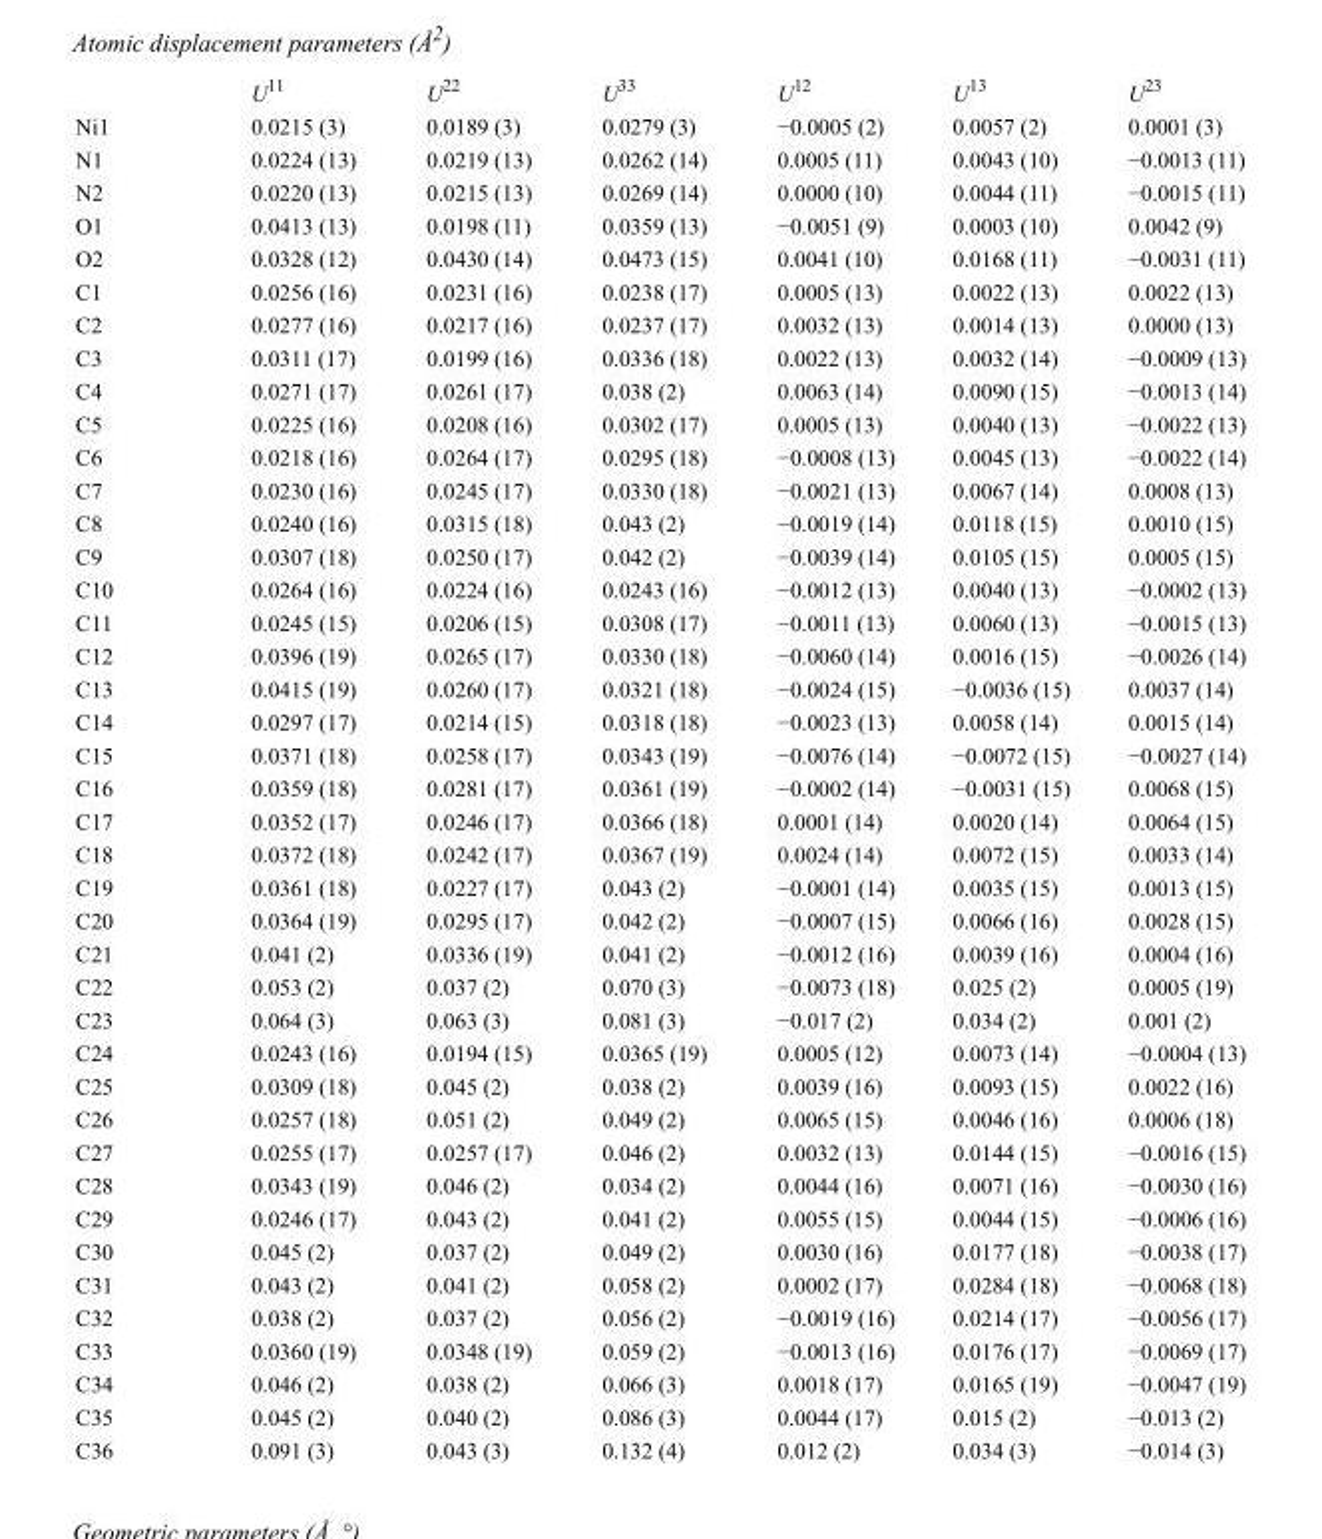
<table><thead><tr><td></td><td>U<sup>11</sup></td><td>U<sup>22</sup></td><td>U<sup>33</sup></td><td>U<sup>12</sup></td><td>U<sup>13</sup></td><td>U<sup>23</sup></td></tr></thead><tbody><tr><td>Ni1</td><td>0.0215 (3)</td><td>0.0189 (3)</td><td>0.0279 (3)</td><td>−0.0005 (2)</td><td>0.0057 (2)</td><td>0.0001 (3)</td></tr><tr><td>N1</td><td>0.0224 (13)</td><td>0.0219 (13)</td><td>0.0262 (14)</td><td>0.0005 (11)</td><td>0.0043 (10)</td><td>−0.0013 (11)</td></tr><tr><td>N2</td><td>0.0220 (13)</td><td>0.0215 (13)</td><td>0.0269 (14)</td><td>0.0000 (10)</td><td>0.0044 (11)</td><td>−0.0015 (11)</td></tr><tr><td>O1</td><td>0.0413 (13)</td><td>0.0198 (11)</td><td>0.0359 (13)</td><td>−0.0051 (9)</td><td>0.0003 (10)</td><td>0.0042 (9)</td></tr><tr><td>O2</td><td>0.0328 (12)</td><td>0.0430 (14)</td><td>0.0473 (15)</td><td>0.0041 (10)</td><td>0.0168 (11)</td><td>−0.0031 (11)</td></tr><tr><td>C1</td><td>0.0256 (16)</td><td>0.0231 (16)</td><td>0.0238 (17)</td><td>0.0005 (13)</td><td>0.0022 (13)</td><td>0.0022 (13)</td></tr><tr><td>C2</td><td>0.0277 (16)</td><td>0.0217 (16)</td><td>0.0237 (17)</td><td>0.0032 (13)</td><td>0.0014 (13)</td><td>0.0000 (13)</td></tr><tr><td>C3</td><td>0.0311 (17)</td><td>0.0199 (16)</td><td>0.0336 (18)</td><td>0.0022 (13)</td><td>0.0032 (14)</td><td>−0.0009 (13)</td></tr><tr><td>C4</td><td>0.0271 (17)</td><td>0.0261 (17)</td><td>0.038 (2)</td><td>0.0063 (14)</td><td>0.0090 (15)</td><td>−0.0013 (14)</td></tr><tr><td>C5</td><td>0.0225 (16)</td><td>0.0208 (16)</td><td>0.0302 (17)</td><td>0.0005 (13)</td><td>0.0040 (13)</td><td>−0.0022 (13)</td></tr><tr><td>C6</td><td>0.0218 (16)</td><td>0.0264 (17)</td><td>0.0295 (18)</td><td>−0.0008 (13)</td><td>0.0045 (13)</td><td>−0.0022 (14)</td></tr><tr><td>C7</td><td>0.0230 (16)</td><td>0.0245 (17)</td><td>0.0330 (18)</td><td>−0.0021 (13)</td><td>0.0067 (14)</td><td>0.0008 (13)</td></tr><tr><td>C8</td><td>0.0240 (16)</td><td>0.0315 (18)</td><td>0.043 (2)</td><td>−0.0019 (14)</td><td>0.0118 (15)</td><td>0.0010 (15)</td></tr><tr><td>C9</td><td>0.0307 (18)</td><td>0.0250 (17)</td><td>0.042 (2)</td><td>−0.0039 (14)</td><td>0.0105 (15)</td><td>0.0005 (15)</td></tr><tr><td>C10</td><td>0.0264 (16)</td><td>0.0224 (16)</td><td>0.0243 (16)</td><td>−0.0012 (13)</td><td>0.0040 (13)</td><td>−0.0002 (13)</td></tr><tr><td>C11</td><td>0.0245 (15)</td><td>0.0206 (15)</td><td>0.0308 (17)</td><td>−0.0011 (13)</td><td>0.0060 (13)</td><td>−0.0015 (13)</td></tr><tr><td>C12</td><td>0.0396 (19)</td><td>0.0265 (17)</td><td>0.0330 (18)</td><td>−0.0060 (14)</td><td>0.0016 (15)</td><td>−0.0026 (14)</td></tr><tr><td>C13</td><td>0.0415 (19)</td><td>0.0260 (17)</td><td>0.0321 (18)</td><td>−0.0024 (15)</td><td>−0.0036 (15)</td><td>0.0037 (14)</td></tr><tr><td>C14</td><td>0.0297 (17)</td><td>0.0214 (15)</td><td>0.0318 (18)</td><td>−0.0023 (13)</td><td>0.0058 (14)</td><td>0.0015 (14)</td></tr><tr><td>C15</td><td>0.0371 (18)</td><td>0.0258 (17)</td><td>0.0343 (19)</td><td>−0.0076 (14)</td><td>−0.0072 (15)</td><td>−0.0027 (14)</td></tr><tr><td>C16</td><td>0.0359 (18)</td><td>0.0281 (17)</td><td>0.0361 (19)</td><td>−0.0002 (14)</td><td>−0.0031 (15)</td><td>0.0068 (15)</td></tr><tr><td>C17</td><td>0.0352 (17)</td><td>0.0246 (17)</td><td>0.0366 (18)</td><td>0.0001 (14)</td><td>0.0020 (14)</td><td>0.0064 (15)</td></tr><tr><td>C18</td><td>0.0372 (18)</td><td>0.0242 (17)</td><td>0.0367 (19)</td><td>0.0024 (14)</td><td>0.0072 (15)</td><td>0.0033 (14)</td></tr><tr><td>C19</td><td>0.0361 (18)</td><td>0.0227 (17)</td><td>0.043 (2)</td><td>−0.0001 (14)</td><td>0.0035 (15)</td><td>0.0013 (15)</td></tr><tr><td>C20</td><td>0.0364 (19)</td><td>0.0295 (17)</td><td>0.042 (2)</td><td>−0.0007 (15)</td><td>0.0066 (16)</td><td>0.0028 (15)</td></tr><tr><td>C21</td><td>0.041 (2)</td><td>0.0336 (19)</td><td>0.041 (2)</td><td>−0.0012 (16)</td><td>0.0039 (16)</td><td>0.0004 (16)</td></tr><tr><td>C22</td><td>0.053 (2)</td><td>0.037 (2)</td><td>0.070 (3)</td><td>−0.0073 (18)</td><td>0.025 (2)</td><td>0.0005 (19)</td></tr><tr><td>C23</td><td>0.064 (3)</td><td>0.063 (3)</td><td>0.081 (3)</td><td>−0.017 (2)</td><td>0.034 (2)</td><td>0.001 (2)</td></tr><tr><td>C24</td><td>0.0243 (16)</td><td>0.0194 (15)</td><td>0.0365 (19)</td><td>0.0005 (12)</td><td>0.0073 (14)</td><td>−0.0004 (13)</td></tr><tr><td>C25</td><td>0.0309 (18)</td><td>0.045 (2)</td><td>0.038 (2)</td><td>0.0039 (16)</td><td>0.0093 (15)</td><td>0.0022 (16)</td></tr><tr><td>C26</td><td>0.0257 (18)</td><td>0.051 (2)</td><td>0.049 (2)</td><td>0.0065 (15)</td><td>0.0046 (16)</td><td>0.0006 (18)</td></tr><tr><td>C27</td><td>0.0255 (17)</td><td>0.0257 (17)</td><td>0.046 (2)</td><td>0.0032 (13)</td><td>0.0144 (15)</td><td>−0.0016 (15)</td></tr><tr><td>C28</td><td>0.0343 (19)</td><td>0.046 (2)</td><td>0.034 (2)</td><td>0.0044 (16)</td><td>0.0071 (16)</td><td>−0.0030 (16)</td></tr><tr><td>C29</td><td>0.0246 (17)</td><td>0.043 (2)</td><td>0.041 (2)</td><td>0.0055 (15)</td><td>0.0044 (15)</td><td>−0.0006 (16)</td></tr><tr><td>C30</td><td>0.045 (2)</td><td>0.037 (2)</td><td>0.049 (2)</td><td>0.0030 (16)</td><td>0.0177 (18)</td><td>−0.0038 (17)</td></tr><tr><td>C31</td><td>0.043 (2)</td><td>0.041 (2)</td><td>0.058 (2)</td><td>0.0002 (17)</td><td>0.0284 (18)</td><td>−0.0068 (18)</td></tr><tr><td>C32</td><td>0.038 (2)</td><td>0.037 (2)</td><td>0.056 (2)</td><td>−0.0019 (16)</td><td>0.0214 (17)</td><td>−0.0056 (17)</td></tr><tr><td>C33</td><td>0.0360 (19)</td><td>0.0348 (19)</td><td>0.059 (2)</td><td>−0.0013 (16)</td><td>0.0176 (17)</td><td>−0.0069 (17)</td></tr><tr><td>C34</td><td>0.046 (2)</td><td>0.038 (2)</td><td>0.066 (3)</td><td>0.0018 (17)</td><td>0.0165 (19)</td><td>−0.0047 (19)</td></tr><tr><td>C35</td><td>0.045 (2)</td><td>0.040 (2)</td><td>0.086 (3)</td><td>0.0044 (17)</td><td>0.015 (2)</td><td>−0.013 (2)</td></tr><tr><td>C36</td><td>0.091 (3)</td><td>0.043 (3)</td><td>0.132 (4)</td><td>0.012 (2)</td><td>0.034 (3)</td><td>−0.014 (3)</td></tr></tbody></table>